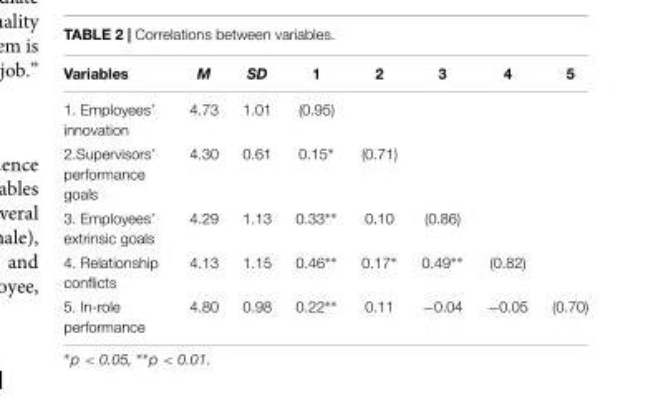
<table><thead><tr><td>Variables</td><td>M</td><td>SD</td><td>1</td><td>2</td><td>3</td><td>4</td><td>5</td></tr></thead><tbody><tr><td>1. Employees’ innovation</td><td>4.73</td><td>1.01</td><td>(0.95)</td><td></td><td></td><td></td><td></td></tr><tr><td>2.Supervisors’ performance goals</td><td>4.30</td><td>0.61</td><td>0.15∗</td><td>(0.71)</td><td></td><td></td><td></td></tr><tr><td>3. Employees’ extrinsic goals</td><td>4.29</td><td>1.13</td><td>0.33∗∗</td><td>0.10</td><td>(0.86)</td><td></td><td></td></tr><tr><td>4. Relationship conflicts</td><td>4.13</td><td>1.15</td><td>0.46∗∗</td><td>0.17∗</td><td>0.49∗∗</td><td>(0.82)</td><td></td></tr><tr><td>5. In-role performance</td><td>4.80</td><td>0.98</td><td>0.22∗∗</td><td>0.11</td><td>−0.04</td><td>−0.05</td><td>(0.70)</td></tr></tbody></table>